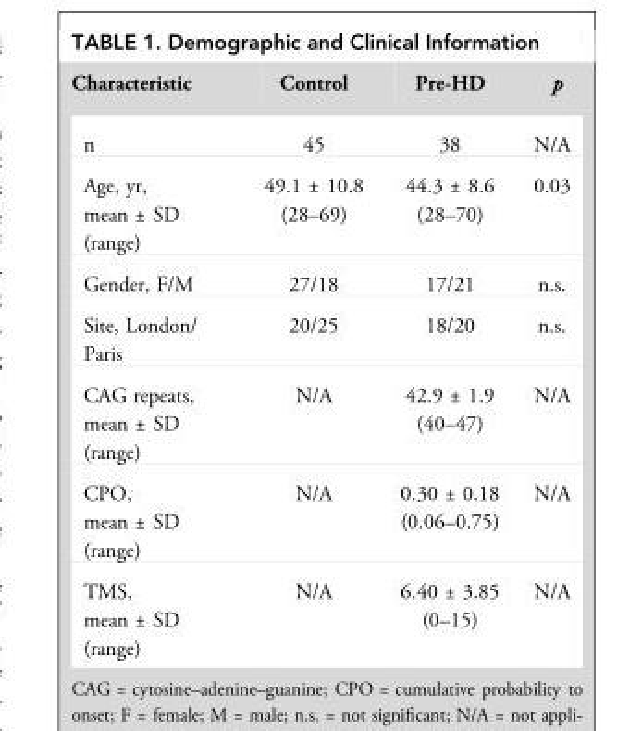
<table><thead><tr><td>Characteristic</td><td>Control</td><td>Pre-HD</td><td>p</td></tr></thead><tbody><tr><td>n</td><td>45</td><td>38</td><td>N/A</td></tr><tr><td>Age, yr, mean ± SD (range)</td><td>49.1 ± 10.8 (28–69)</td><td>44.3 ± 8.6 (28–70)</td><td>0.03</td></tr><tr><td>Gender, F/M</td><td>27/18</td><td>17/21</td><td>n.s.</td></tr><tr><td>Site, London/ Paris</td><td>20/25</td><td>18/20</td><td>n.s.</td></tr><tr><td>CAG repeats, mean ± SD (range)</td><td>N/A</td><td>42.9 ± 1.9 (40–47)</td><td>N/A</td></tr><tr><td>CPO, mean ± SD (range)</td><td>N/A</td><td>0.30 ± 0.18 (0.06–0.75)</td><td>N/A</td></tr><tr><td>TMS, mean ± SD (range)</td><td>N/A</td><td>6.40 ± 3.85 (0–15)</td><td>N/A</td></tr></tbody></table>